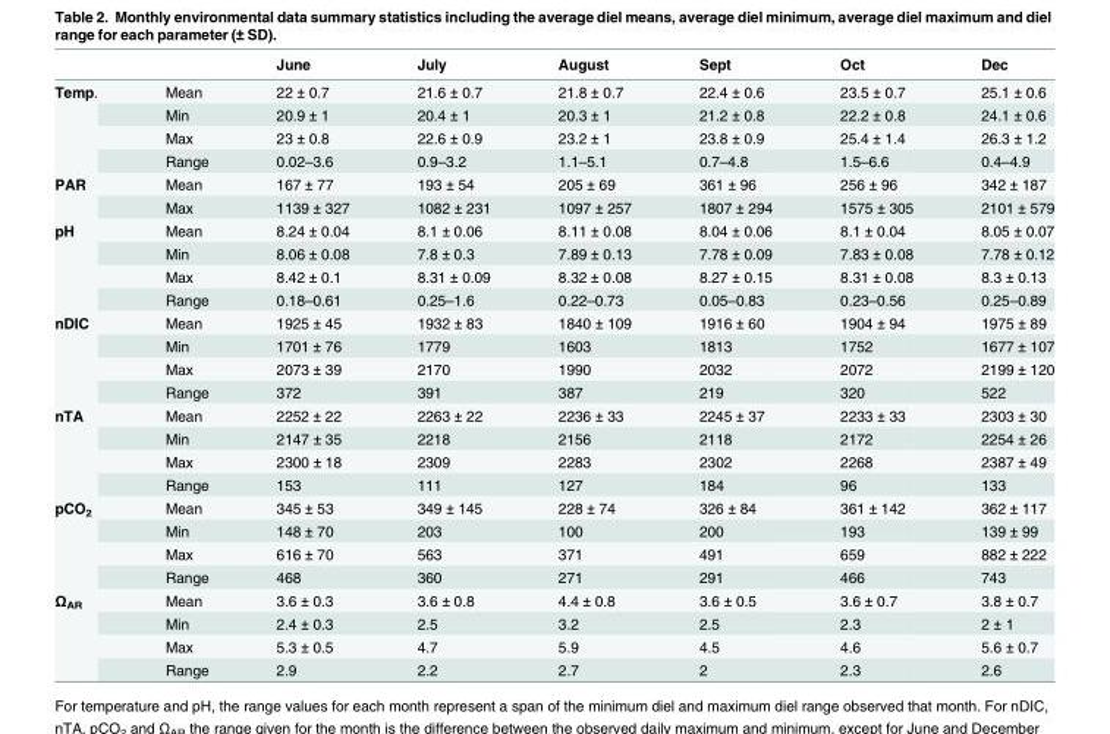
<table><thead><tr><td></td><td></td><td>June</td><td>July</td><td>August</td><td>Sept</td><td>Oct</td><td>Dec</td></tr></thead><tbody><tr><td rowspan="4">Temp.</td><td>Mean</td><td>22 ± 0.7</td><td>21.6 ± 0.7</td><td>21.8 ± 0.7</td><td>22.4 ± 0.6</td><td>23.5 ± 0.7</td><td>25.1 ± 0.6</td></tr><tr><td>Min</td><td>20.9 ± 1</td><td>20.4 ± 1</td><td>20.3 ± 1</td><td>21.2 ± 0.8</td><td>22.2 ± 0.8</td><td>24.1 ± 0.6</td></tr><tr><td>Max</td><td>23 ± 0.8</td><td>22.6 ± 0.9</td><td>23.2 ± 1</td><td>23.8 ± 0.9</td><td>25.4 ± 1.4</td><td>26.3 ± 1.2</td></tr><tr><td>Range</td><td>0.02–3.6</td><td>0.9–3.2</td><td>1.1–5.1</td><td>0.7–4.8</td><td>1.5–6.6</td><td>0.4–4.9</td></tr><tr><td rowspan="2">PAR</td><td>Mean</td><td>167 ± 77</td><td>193 ± 54</td><td>205 ± 69</td><td>361 ± 96</td><td>256 ± 96</td><td>342 ± 187</td></tr><tr><td>Max</td><td>1139 ± 327</td><td>1082 ± 231</td><td>1097 ± 257</td><td>1807 ± 294</td><td>1575 ± 305</td><td>2101 ± 579</td></tr><tr><td rowspan="4">pH</td><td>Mean</td><td>8.24 ± 0.04</td><td>8.1 ± 0.06</td><td>8.11 ± 0.08</td><td>8.04 ± 0.06</td><td>8.1 ± 0.04</td><td>8.05 ± 0.07</td></tr><tr><td>Min</td><td>8.06 ± 0.08</td><td>7.8 ± 0.3</td><td>7.89 ± 0.13</td><td>7.78 ± 0.09</td><td>7.83 ± 0.08</td><td>7.78 ± 0.12</td></tr><tr><td>Max</td><td>8.42 ± 0.1</td><td>8.31 ± 0.09</td><td>8.32 ± 0.08</td><td>8.27 ± 0.15</td><td>8.31 ± 0.08</td><td>8.3 ± 0.13</td></tr><tr><td>Range</td><td>0.18–0.61</td><td>0.25–1.6</td><td>0.22–0.73</td><td>0.05–0.83</td><td>0.23–0.56</td><td>0.25–0.89</td></tr><tr><td rowspan="4">nDIC</td><td>Mean</td><td>1925 ± 45</td><td>1932 ± 83</td><td>1840 ± 109</td><td>1916 ± 60</td><td>1904 ± 94</td><td>1975 ± 89</td></tr><tr><td>Min</td><td>1701 ± 76</td><td>1779</td><td>1603</td><td>1813</td><td>1752</td><td>1677 ± 107</td></tr><tr><td>Max</td><td>2073 ± 39</td><td>2170</td><td>1990</td><td>2032</td><td>2072</td><td>2199 ± 120</td></tr><tr><td>Range</td><td>372</td><td>391</td><td>387</td><td>219</td><td>320</td><td>522</td></tr><tr><td rowspan="4">nTA</td><td>Mean</td><td>2252 ± 22</td><td>2263 ± 22</td><td>2236 ± 33</td><td>2245 ± 37</td><td>2233 ± 33</td><td>2303 ± 30</td></tr><tr><td>Min</td><td>2147 ± 35</td><td>2218</td><td>2156</td><td>2118</td><td>2172</td><td>2254 ± 26</td></tr><tr><td>Max</td><td>2300 ± 18</td><td>2309</td><td>2283</td><td>2302</td><td>2268</td><td>2387 ± 49</td></tr><tr><td>Range</td><td>153</td><td>111</td><td>127</td><td>184</td><td>96</td><td>133</td></tr><tr><td rowspan="4">pCO<sub>2</sub></td><td>Mean</td><td>345 ± 53</td><td>349 ± 145</td><td>228 ± 74</td><td>326 ± 84</td><td>361 ± 142</td><td>362 ± 117</td></tr><tr><td>Min</td><td>148 ± 70</td><td>203</td><td>100</td><td>200</td><td>193</td><td>139 ± 99</td></tr><tr><td>Max</td><td>616 ± 70</td><td>563</td><td>371</td><td>491</td><td>659</td><td>882 ± 222</td></tr><tr><td>Range</td><td>468</td><td>360</td><td>271</td><td>291</td><td>466</td><td>743</td></tr><tr><td rowspan="4">Ω<sub>AR</sub></td><td>Mean</td><td>3.6 ± 0.3</td><td>3.6 ± 0.8</td><td>4.4 ± 0.8</td><td>3.6 ± 0.5</td><td>3.6 ± 0.7</td><td>3.8 ± 0.7</td></tr><tr><td>Min</td><td>2.4 ± 0.3</td><td>2.5</td><td>3.2</td><td>2.5</td><td>2.3</td><td>2 ± 1</td></tr><tr><td>Max</td><td>5.3 ± 0.5</td><td>4.7</td><td>5.9</td><td>4.5</td><td>4.6</td><td>5.6 ± 0.7</td></tr><tr><td>Range</td><td>2.9</td><td>2.2</td><td>2.7</td><td>2</td><td>2.3</td><td>2.6</td></tr></tbody></table>